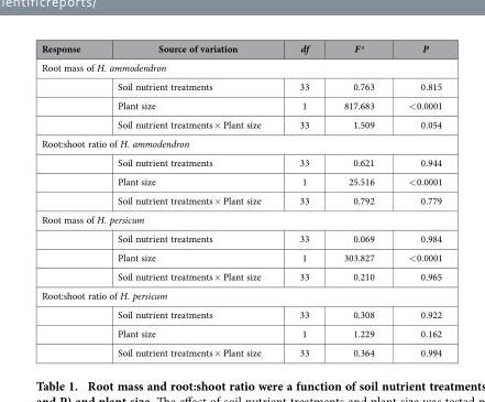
<table><thead><tr><td>Response</td><td>Source of variation</td><td>df</td><td>F a</td><td>P</td></tr></thead><tbody><tr><td colspan="5">Root mass of H. ammodendron</td></tr><tr><td></td><td>Soil nutrient treatments</td><td>33</td><td>0.763</td><td>0.815</td></tr><tr><td></td><td>Plant size</td><td>1</td><td>817.683</td><td>&lt; 0.0001</td></tr><tr><td></td><td>Soil nutrient treatments × Plant size</td><td>33</td><td>1.509</td><td>0.054</td></tr><tr><td colspan="5">Root:shoot ratio of H. ammodendron</td></tr><tr><td></td><td>Soil nutrient treatments</td><td>33</td><td>0.621</td><td>0.944</td></tr><tr><td></td><td>Plant size</td><td>1</td><td>25.516</td><td>&lt; 0.0001</td></tr><tr><td></td><td>Soil nutrient treatments × Plant size</td><td>33</td><td>0.792</td><td>0.779</td></tr><tr><td colspan="5">Root mass of H. persicum</td></tr><tr><td></td><td>Soil nutrient treatments</td><td>33</td><td>0.069</td><td>0.984</td></tr><tr><td></td><td>Plant size</td><td>1</td><td>303.827</td><td>&lt; 0.0001</td></tr><tr><td></td><td>Soil nutrient treatments × Plant size</td><td>33</td><td>0.210</td><td>0.965</td></tr><tr><td colspan="5">Root:shoot ratio of H. persicum</td></tr><tr><td></td><td>Soil nutrient treatments</td><td>33</td><td>0.308</td><td>0.922</td></tr><tr><td></td><td>Plant size</td><td>1</td><td>1.229</td><td>0.162</td></tr><tr><td></td><td>Soil nutrient treatments × Plant size</td><td>33</td><td>0.364</td><td>0.994</td></tr></tbody></table>